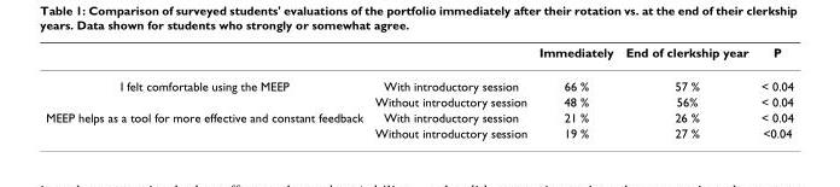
<table><thead><tr><td></td><td></td><td>Immediately</td><td>End of clerkship year</td><td>P</td></tr></thead><tbody><tr><td rowspan="2">I felt comfortable using the MEEP</td><td>With introductory session</td><td>66 %</td><td>57 %</td><td>&lt; 0.04</td></tr><tr><td>Without introductory session</td><td>48 %</td><td>56%</td><td>&lt; 0.04</td></tr><tr><td rowspan="2">MEEP helps as a tool for more effective and constant feedback</td><td>With introductory session</td><td>21 %</td><td>26 %</td><td>&lt; 0.04</td></tr><tr><td>Without introductory session</td><td>19 %</td><td>27 %</td><td>&lt;0.04</td></tr></tbody></table>